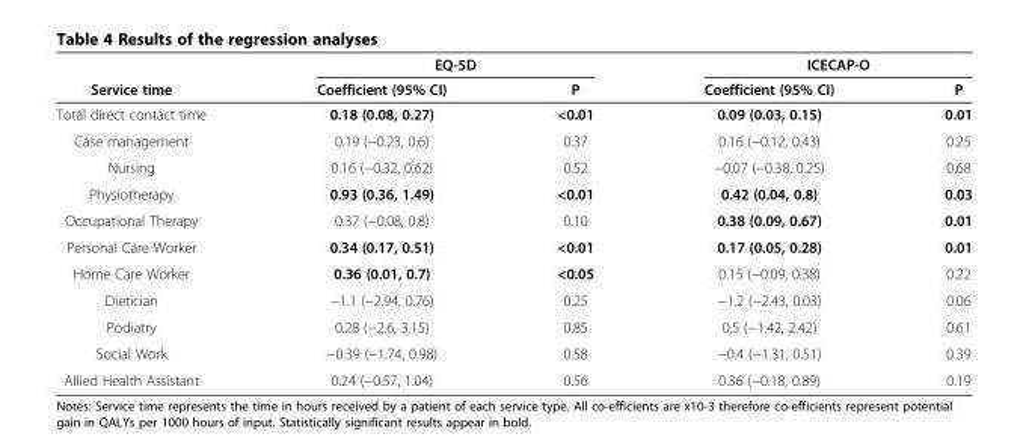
<table><thead><tr><td rowspan="2">Service time</td><td colspan="2">EQ-5D</td><td colspan="2">ICECAP-O</td></tr><tr><td>Coefficient (95% CI)</td><td>P</td><td>Coefficient (95% CI)</td><td>P</td></tr></thead><tbody><tr><td>Total direct contact time</td><td>0.18 (0.08, 0.27)</td><td>&lt;0.01</td><td>0.09 (0.03, 0.15)</td><td>0.01</td></tr><tr><td>Case management</td><td>0.19 (−0.23, 0.6)</td><td>0.37</td><td>0.16 (−0.12, 0.43)</td><td>0.25</td></tr><tr><td>Nursing</td><td>0.16 (−0.32, 0.62)</td><td>0.52</td><td>−0.07 (−0.38, 0.25)</td><td>0.68</td></tr><tr><td>Physiotherapy</td><td>0.93 (0.36, 1.49)</td><td>&lt;0.01</td><td>0.42 (0.04, 0.8)</td><td>0.03</td></tr><tr><td>Occupational Therapy</td><td>0.37 (−0.08, 0.8)</td><td>0.10</td><td>0.38 (0.09, 0.67)</td><td>0.01</td></tr><tr><td>Personal Care Worker</td><td>0.34 (0.17, 0.51)</td><td>&lt;0.01</td><td>0.17 (0.05, 0.28)</td><td>0.01</td></tr><tr><td>Home Care Worker</td><td>0.36 (0.01, 0.7)</td><td>&lt;0.05</td><td>0.15 (−0.09, 0.38)</td><td>0.22</td></tr><tr><td>Dietician</td><td>−1.1 (−2.94, 0.76)</td><td>0.25</td><td>−1.2 (−2.43, 0.03)</td><td>0.06</td></tr><tr><td>Podiatry</td><td>0.28 (−2.6, 3.15)</td><td>0.85</td><td>0.5 (−1.42, 2.42)</td><td>0.61</td></tr><tr><td>Social Work</td><td>−0.39 (−1.74, 0.98)</td><td>0.58</td><td>−0.4 (−1.31, 0.51)</td><td>0.39</td></tr><tr><td>Allied Health Assistant</td><td>0.24 (−0.57, 1.04)</td><td>0.56</td><td>0.36 (−0.18, 0.89)</td><td>0.19</td></tr></tbody></table>